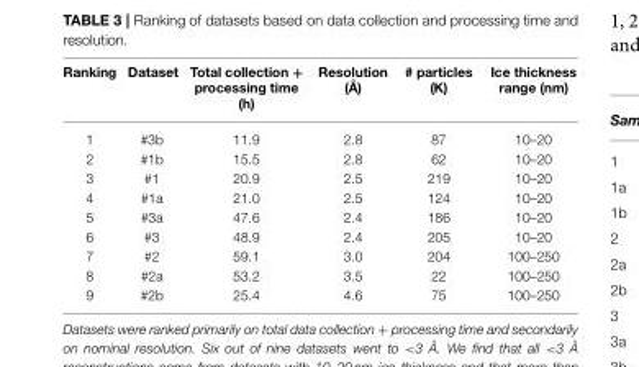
<table><thead><tr><td>Ranking</td><td>Dataset</td><td>Total collection + processing time (h)</td><td>Resolution (Å)</td><td># particles (K)</td><td>Ice thickness range (nm)</td></tr></thead><tbody><tr><td>1</td><td>#3b</td><td>11.9</td><td>2.8</td><td>87</td><td>10–20</td></tr><tr><td>2</td><td>#1b</td><td>15.5</td><td>2.8</td><td>62</td><td>10–20</td></tr><tr><td>3</td><td>#1</td><td>20.9</td><td>2.5</td><td>219</td><td>10–20</td></tr><tr><td>4</td><td>#1a</td><td>21.0</td><td>2.5</td><td>124</td><td>10–20</td></tr><tr><td>5</td><td>#3a</td><td>47.6</td><td>2.4</td><td>186</td><td>10–20</td></tr><tr><td>6</td><td>#3</td><td>48.9</td><td>2.4</td><td>205</td><td>10–20</td></tr><tr><td>7</td><td>#2</td><td>59.1</td><td>3.0</td><td>204</td><td>100–250</td></tr><tr><td>8</td><td>#2a</td><td>53.2</td><td>3.5</td><td>22</td><td>100–250</td></tr><tr><td>9</td><td>#2b</td><td>25.4</td><td>4.6</td><td>75</td><td>100–250</td></tr></tbody></table>